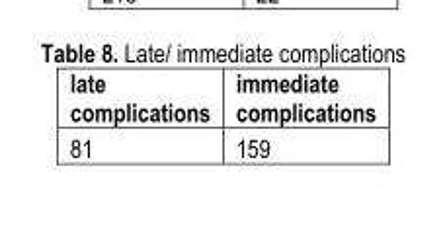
<table><thead><tr><td>late complications</td><td>immediate complications</td></tr></thead><tbody><tr><td>81</td><td>159</td></tr></tbody></table>